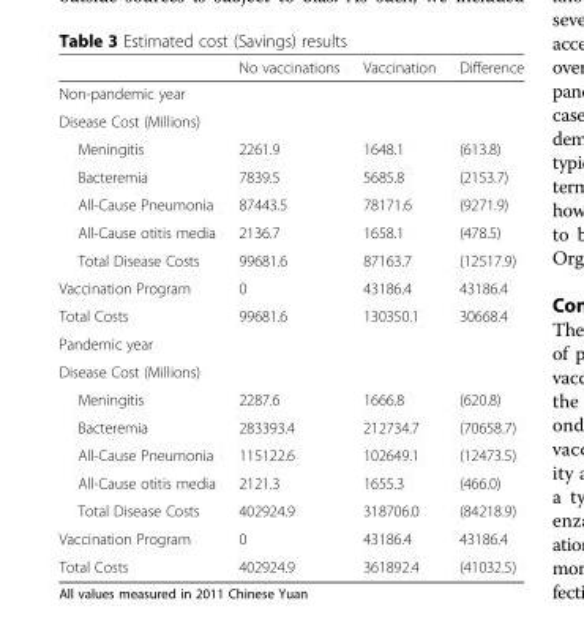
<table><thead><tr><td></td><td>No vaccinations</td><td>Vaccination</td><td>Difference</td></tr></thead><tbody><tr><td colspan="4">Non-pandemic year</td></tr><tr><td colspan="4">Disease Cost (Millions)</td></tr><tr><td>Meningitis</td><td>2261.9</td><td>1648.1</td><td>(613.8)</td></tr><tr><td>Bacteremia</td><td>7839.5</td><td>5685.8</td><td>(2153.7)</td></tr><tr><td>All-Cause Pneumonia</td><td>87443.5</td><td>78171.6</td><td>(9271.9)</td></tr><tr><td>All-Cause otitis media</td><td>2136.7</td><td>1658.1</td><td>(478.5)</td></tr><tr><td>Total Disease Costs</td><td>99681.6</td><td>87163.7</td><td>(12517.9)</td></tr><tr><td>Vaccination Program</td><td>0</td><td>43186.4</td><td>43186.4</td></tr><tr><td>Total Costs</td><td>99681.6</td><td>130350.1</td><td>30668.4</td></tr><tr><td colspan="4">Pandemic year</td></tr><tr><td colspan="4">Disease Cost (Millions)</td></tr><tr><td>Meningitis</td><td>2287.6</td><td>1666.8</td><td>(620.8)</td></tr><tr><td>Bacteremia</td><td>283393.4</td><td>212734.7</td><td>(70658.7)</td></tr><tr><td>All-Cause Pneumonia</td><td>115122.6</td><td>102649.1</td><td>(12473.5)</td></tr><tr><td>All-Cause otitis media</td><td>2121.3</td><td>1655.3</td><td>(466.0)</td></tr><tr><td>Total Disease Costs</td><td>402924.9</td><td>318706.0</td><td>(84218.9)</td></tr><tr><td>Vaccination Program</td><td>0</td><td>43186.4</td><td>43186.4</td></tr><tr><td>Total Costs</td><td>402924.9</td><td>361892.4</td><td>(41032.5)</td></tr></tbody></table>